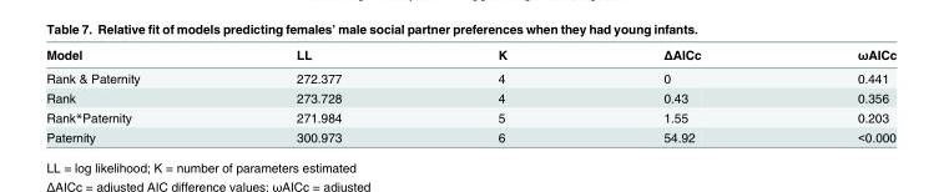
<table><thead><tr><td>Model</td><td>LL</td><td>K</td><td>ΔAICc</td><td>ωAICc</td></tr></thead><tbody><tr><td>Rank &amp; Paternity</td><td>272.377</td><td>4</td><td>0</td><td>0.441</td></tr><tr><td>Rank</td><td>273.728</td><td>4</td><td>0.43</td><td>0.356</td></tr><tr><td>Rank*Paternity</td><td>271.984</td><td>5</td><td>1.55</td><td>0.203</td></tr><tr><td>Paternity</td><td>300.973</td><td>6</td><td>54.92</td><td>&lt;0.000</td></tr></tbody></table>